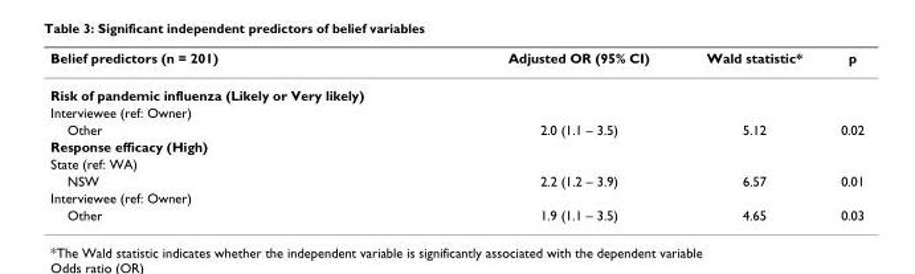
<table><thead><tr><td>Belief predictors (n = 201)</td><td>Adjusted OR (95% CI)</td><td>Wald statistic*</td><td>p</td></tr></thead><tbody><tr><td colspan="4">Risk of pandemic influenza (Likely or Very likely)</td></tr><tr><td colspan="4">Interviewee (ref: Owner)</td></tr><tr><td>Other</td><td>2.0 (1.1 – 3.5)</td><td>5.12</td><td>0.02</td></tr><tr><td colspan="4">Response efficacy (High)</td></tr><tr><td colspan="4">State (ref: WA)</td></tr><tr><td>NSW</td><td>2.2 (1.2 – 3.9)</td><td>6.57</td><td>0.01</td></tr><tr><td colspan="4">Interviewee (ref: Owner)</td></tr><tr><td>Other</td><td>1.9 (1.1 – 3.5)</td><td>4.65</td><td>0.03</td></tr></tbody></table>